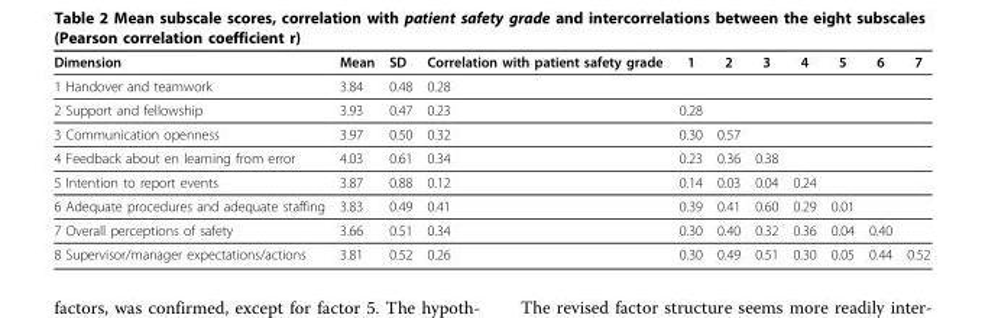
<table><thead><tr><td>Dimension</td><td>Mean</td><td>SD</td><td>Correlation with patient safety grade</td><td>1</td><td>2</td><td>3</td><td>4</td><td>5</td><td>6</td><td>7</td></tr></thead><tbody><tr><td>1 Handover and teamwork</td><td>3.84</td><td>0.48</td><td>0.28</td><td></td><td></td><td></td><td></td><td></td><td></td><td></td></tr><tr><td>2 Support and fellowship</td><td>3.93</td><td>0.47</td><td>0.23</td><td>0.28</td><td></td><td></td><td></td><td></td><td></td><td></td></tr><tr><td>3 Communication openness</td><td>3.97</td><td>0.50</td><td>0.32</td><td>0.30</td><td>0.57</td><td></td><td></td><td></td><td></td><td></td></tr><tr><td>4 Feedback about en learning from error</td><td>4.03</td><td>0.61</td><td>0.34</td><td>0.23</td><td>0.36</td><td>0.38</td><td></td><td></td><td></td><td></td></tr><tr><td>5 Intention to report events</td><td>3.87</td><td>0.88</td><td>0.12</td><td>0.14</td><td>0.03</td><td>0.04</td><td>0.24</td><td></td><td></td><td></td></tr><tr><td>6 Adequate procedures and adequate staffing</td><td>3.83</td><td>0.49</td><td>0.41</td><td>0.39</td><td>0.41</td><td>0.60</td><td>0.29</td><td>0.01</td><td></td><td></td></tr><tr><td>7 Overall perceptions of safety</td><td>3.66</td><td>0.51</td><td>0.34</td><td>0.30</td><td>0.40</td><td>0.32</td><td>0.36</td><td>0.04</td><td>0.40</td><td></td></tr><tr><td>8 Supervisor/manager expectations/actions</td><td>3.81</td><td>0.52</td><td>0.26</td><td>0.30</td><td>0.49</td><td>0.51</td><td>0.30</td><td>0.05</td><td>0.44</td><td>0.52</td></tr></tbody></table>